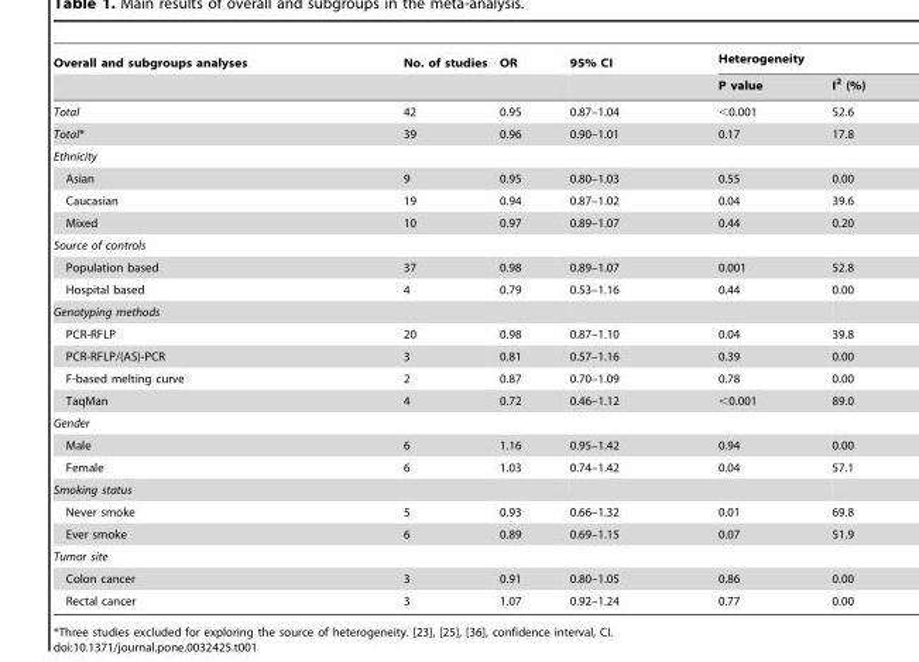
<table><thead><tr><td rowspan="2">Overall and subgroups analyses</td><td rowspan="2">No. of studies</td><td rowspan="2">OR</td><td rowspan="2">95% CI</td><td colspan="2">Heterogeneity</td></tr><tr><td>P value</td><td>I<sup>2</sup> (%)</td></tr></thead><tbody><tr><td>Total</td><td>42</td><td>0.95</td><td>0.87–1.04</td><td>&lt;0.001</td><td>52.6</td></tr><tr><td>Total*</td><td>39</td><td>0.96</td><td>0.90–1.01</td><td>0.17</td><td>17.8</td></tr><tr><td colspan="6">Ethnicity</td></tr><tr><td>Asian</td><td>9</td><td>0.95</td><td>0.80–1.03</td><td>0.55</td><td>0.00</td></tr><tr><td>Caucasian</td><td>19</td><td>0.94</td><td>0.87–1.02</td><td>0.04</td><td>39.6</td></tr><tr><td>Mixed</td><td>10</td><td>0.97</td><td>0.89–1.07</td><td>0.44</td><td>0.20</td></tr><tr><td colspan="6">Source of controls</td></tr><tr><td>Population based</td><td>37</td><td>0.98</td><td>0.89–1.07</td><td>0.001</td><td>52.8</td></tr><tr><td>Hospital based</td><td>4</td><td>0.79</td><td>0.53–1.16</td><td>0.44</td><td>0.00</td></tr><tr><td colspan="6">Genotyping methods</td></tr><tr><td>PCR-RFLP</td><td>20</td><td>0.98</td><td>0.87–1.10</td><td>0.04</td><td>39.8</td></tr><tr><td>PCR-RFLP/(AS)-PCR</td><td>3</td><td>0.81</td><td>0.57–1.16</td><td>0.39</td><td>0.00</td></tr><tr><td>F-based melting curve</td><td>2</td><td>0.87</td><td>0.70–1.09</td><td>0.78</td><td>0.00</td></tr><tr><td>TaqMan</td><td>4</td><td>0.72</td><td>0.46–1.12</td><td>&lt;0.001</td><td>89.0</td></tr><tr><td colspan="6">Gender</td></tr><tr><td>Male</td><td>6</td><td>1.16</td><td>0.95–1.42</td><td>0.94</td><td>0.00</td></tr><tr><td>Female</td><td>6</td><td>1.03</td><td>0.74–1.42</td><td>0.04</td><td>57.1</td></tr><tr><td colspan="6">Smoking status</td></tr><tr><td>Never smoke</td><td>5</td><td>0.93</td><td>0.66–1.32</td><td>0.01</td><td>69.8</td></tr><tr><td>Ever smoke</td><td>6</td><td>0.89</td><td>0.69–1.15</td><td>0.07</td><td>51.9</td></tr><tr><td colspan="6">Tumor site</td></tr><tr><td>Colon cancer</td><td>3</td><td>0.91</td><td>0.80–1.05</td><td>0.86</td><td>0.00</td></tr><tr><td>Rectal cancer</td><td>3</td><td>1.07</td><td>0.92–1.24</td><td>0.77</td><td>0.00</td></tr></tbody></table>